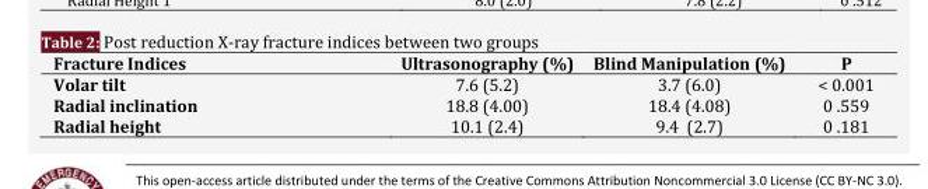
<table><thead><tr><td>Fracture Indices</td><td>Ultrasonography (%)</td><td>Blind Manipulation (%)</td><td>P</td></tr></thead><tbody><tr><td>Volar tilt</td><td>7.6 (5.2)</td><td>3.7 (6.0)</td><td>&lt; 0.001</td></tr><tr><td>Radial inclination</td><td>18.8 (4.00)</td><td>18.4 (4.08)</td><td>0 .559</td></tr><tr><td>Radial height</td><td>10.1 (2.4)</td><td>9.4 (2.7)</td><td>0 .181</td></tr></tbody></table>